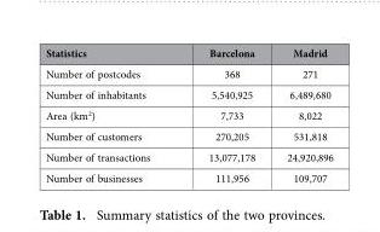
<table><thead><tr><td>Statistics</td><td>Barcelona</td><td>Madrid</td></tr></thead><tbody><tr><td>Number of postcodes</td><td>368</td><td>271</td></tr><tr><td>Number of inhabitants</td><td>5,540,925</td><td>6,489,680</td></tr><tr><td>Area (km<sup>2</sup>)</td><td>7,733</td><td>8,022</td></tr><tr><td>Number of customers</td><td>270,205</td><td>531,818</td></tr><tr><td>Number of transactions</td><td>13,077,178</td><td>24,920,896</td></tr><tr><td>Number of businesses</td><td>111,956</td><td>109,707</td></tr></tbody></table>